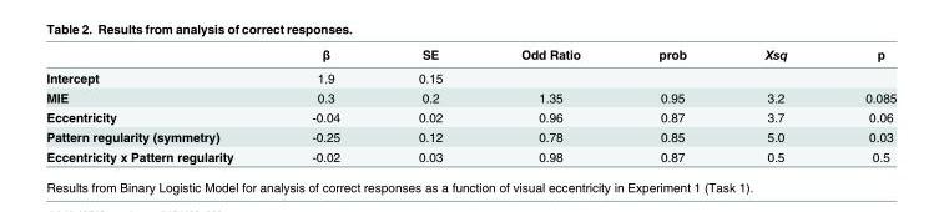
<table><thead><tr><td></td><td>β</td><td>SE</td><td>Odd Ratio</td><td>prob</td><td>Χsq</td><td>p</td></tr></thead><tbody><tr><td>Intercept</td><td>1.9</td><td>0.15</td><td></td><td></td><td></td><td></td></tr><tr><td>MIE</td><td>0.3</td><td>0.2</td><td>1.35</td><td>0.95</td><td>3.2</td><td>0.085</td></tr><tr><td>Eccentricity</td><td>-0.04</td><td>0.02</td><td>0.96</td><td>0.87</td><td>3.7</td><td>0.06</td></tr><tr><td>Pattern regularity (symmetry)</td><td>-0.25</td><td>0.12</td><td>0.78</td><td>0.85</td><td>5.0</td><td>0.03</td></tr><tr><td>Eccentricity x Pattern regularity</td><td>-0.02</td><td>0.03</td><td>0.98</td><td>0.87</td><td>0.5</td><td>0.5</td></tr></tbody></table>